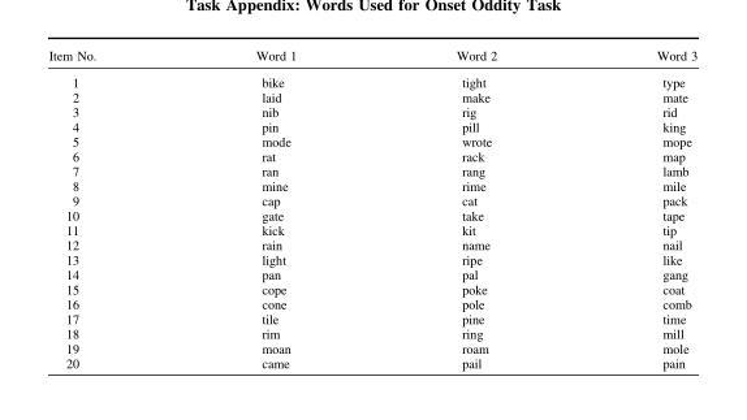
<table><thead><tr><td>Item No.</td><td>Word 1</td><td>Word 2</td><td>Word 3</td></tr></thead><tbody><tr><td>1</td><td>bike</td><td>tight</td><td>type</td></tr><tr><td>2</td><td>laid</td><td>make</td><td>mate</td></tr><tr><td>3</td><td>nib</td><td>rig</td><td>rid</td></tr><tr><td>4</td><td>pin</td><td>pill</td><td>king</td></tr><tr><td>5</td><td>mode</td><td>wrote</td><td>mope</td></tr><tr><td>6</td><td>rat</td><td>rack</td><td>map</td></tr><tr><td>7</td><td>ran</td><td>rang</td><td>lamb</td></tr><tr><td>8</td><td>mine</td><td>rime</td><td>mile</td></tr><tr><td>9</td><td>cap</td><td>cat</td><td>pack</td></tr><tr><td>10</td><td>gate</td><td>take</td><td>tape</td></tr><tr><td>11</td><td>kick</td><td>kit</td><td>tip</td></tr><tr><td>12</td><td>rain</td><td>name</td><td>nail</td></tr><tr><td>13</td><td>light</td><td>ripe</td><td>like</td></tr><tr><td>14</td><td>pan</td><td>pal</td><td>gang</td></tr><tr><td>15</td><td>cope</td><td>poke</td><td>coat</td></tr><tr><td>16</td><td>cone</td><td>pole</td><td>comb</td></tr><tr><td>17</td><td>tile</td><td>pine</td><td>time</td></tr><tr><td>18</td><td>rim</td><td>ring</td><td>mill</td></tr><tr><td>19</td><td>moan</td><td>roam</td><td>mole</td></tr><tr><td>20</td><td>came</td><td>pail</td><td>pain</td></tr></tbody></table>